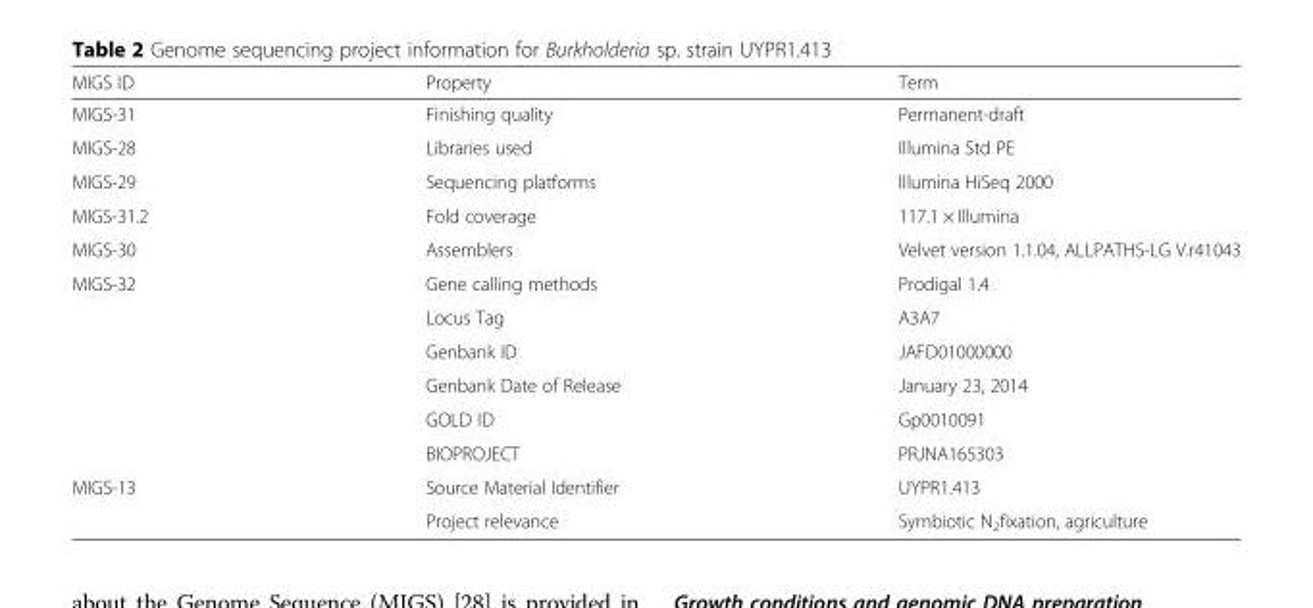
<table><thead><tr><td>MIGS ID</td><td>Property</td><td>Term</td></tr></thead><tbody><tr><td>MIGS-31</td><td>Finishing quality</td><td>Permanent-draft</td></tr><tr><td>MIGS-28</td><td>Libraries used</td><td>Illumina Std PE</td></tr><tr><td>MIGS-29</td><td>Sequencing platforms</td><td>Illumina HiSeq 2000</td></tr><tr><td>MIGS-31.2</td><td>Fold coverage</td><td>117.1 × Illumina</td></tr><tr><td>MIGS-30</td><td>Assemblers</td><td>Velvet version 1.1.04, ALLPATHS-LG V.r41043</td></tr><tr><td rowspan="6">MIGS-32</td><td>Gene calling methods</td><td>Prodigal 1.4</td></tr><tr><td>Locus Tag</td><td>A3A7</td></tr><tr><td>Genbank ID</td><td>JAFD01000000</td></tr><tr><td>Genbank Date of Release</td><td>January 23, 2014</td></tr><tr><td>GOLD ID</td><td>Gp0010091</td></tr><tr><td>BIOPROJECT</td><td>PRJNA165303</td></tr><tr><td rowspan="2">MIGS-13</td><td>Source Material Identifier</td><td>UYPR1.413</td></tr><tr><td>Project relevance</td><td>Symbiotic N<sub>2</sub>fixation, agriculture</td></tr></tbody></table>